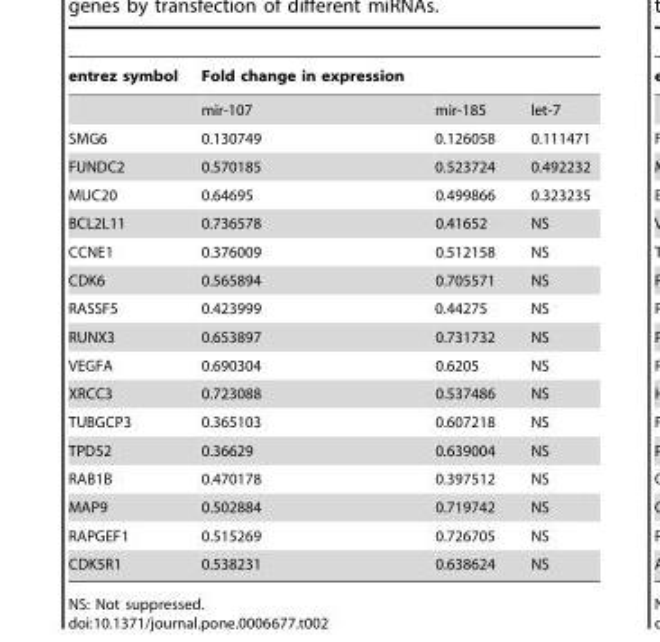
<table><thead><tr><td>entrez symbol</td><td>Fold change in expression</td><td></td><td></td></tr></thead><tbody><tr><td></td><td>mir-107</td><td>mir-185</td><td>let-7</td></tr><tr><td>SMG6</td><td>0.130749</td><td>0.126058</td><td>0.111471</td></tr><tr><td>FUNDC2</td><td>0.570185</td><td>0.523724</td><td>0.492232</td></tr><tr><td>MUC20</td><td>0.64695</td><td>0.499866</td><td>0.323235</td></tr><tr><td>BCL2L11</td><td>0.736578</td><td>0.41652</td><td>NS</td></tr><tr><td>CCNE1</td><td>0.376009</td><td>0.512158</td><td>NS</td></tr><tr><td>CDK6</td><td>0.565894</td><td>0.705571</td><td>NS</td></tr><tr><td>RASSF5</td><td>0.423999</td><td>0.44275</td><td>NS</td></tr><tr><td>RUNX3</td><td>0.653897</td><td>0.731732</td><td>NS</td></tr><tr><td>VEGFA</td><td>0.690304</td><td>0.6205</td><td>NS</td></tr><tr><td>XRCC3</td><td>0.723088</td><td>0.537486</td><td>NS</td></tr><tr><td>TUBGCP3</td><td>0.365103</td><td>0.607218</td><td>NS</td></tr><tr><td>TPD52</td><td>0.36629</td><td>0.639004</td><td>NS</td></tr><tr><td>RAB1B</td><td>0.470178</td><td>0.397512</td><td>NS</td></tr><tr><td>MAP9</td><td>0.502884</td><td>0.719742</td><td>NS</td></tr><tr><td>RAPGEF1</td><td>0.515269</td><td>0.726705</td><td>NS</td></tr><tr><td>CDK5R1</td><td>0.538231</td><td>0.638624</td><td>NS</td></tr></tbody></table>